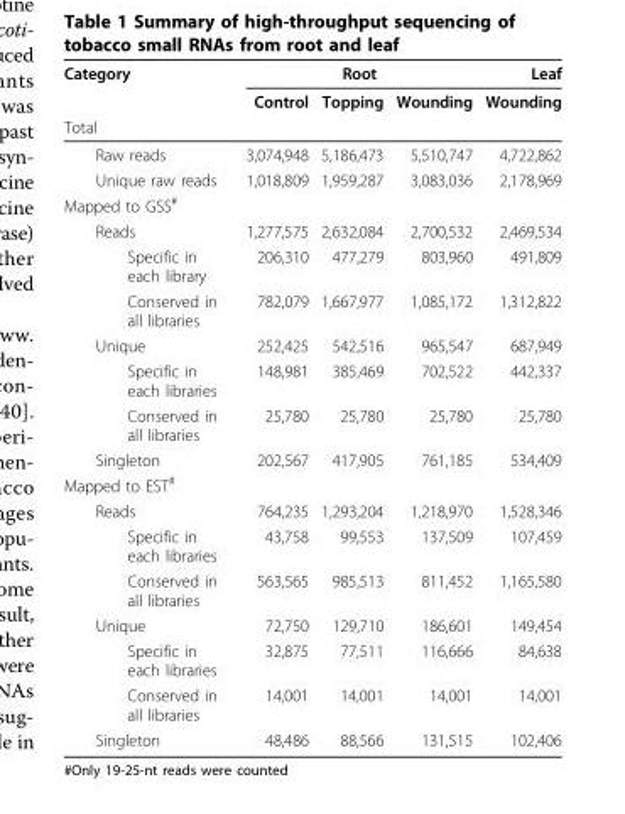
<table><thead><tr><td rowspan="3">Category Total</td><td colspan="3">Root</td><td rowspan="3">Leaf Wounding</td></tr><tr><td rowspan="2">Control</td><td rowspan="2">Topping</td><td rowspan="2">Wounding</td></tr><tr></tr></thead><tbody><tr><td>Raw reads</td><td>3,074,948</td><td>5,186,473</td><td>5,510,747</td><td>4,722,862</td></tr><tr><td>Unique raw reads</td><td>1,018,809</td><td>1,959,287</td><td>3,083,036</td><td>2,178,969</td></tr><tr><td colspan="5">Mapped to GSS<sup>#</sup></td></tr><tr><td>Reads</td><td>1,277,575</td><td>2,632,084</td><td>2,700,532</td><td>2,469,534</td></tr><tr><td>Specific in each library</td><td>206,310</td><td>477,279</td><td>803,960</td><td>491,809</td></tr><tr><td>Conserved in all libraries</td><td>782,079</td><td>1,667,977</td><td>1,085,172</td><td>1,312,822</td></tr><tr><td>Unique</td><td>252,425</td><td>542,516</td><td>965,547</td><td>687,949</td></tr><tr><td>Specific in each libraries</td><td>148,981</td><td>385,469</td><td>702,522</td><td>442,337</td></tr><tr><td>Conserved in all libraries</td><td>25,780</td><td>25,780</td><td>25,780</td><td>25,780</td></tr><tr><td>Singleton</td><td>202,567</td><td>417,905</td><td>761,185</td><td>534,409</td></tr><tr><td colspan="5">Mapped to EST<sup>#</sup></td></tr><tr><td>Reads</td><td>764,235</td><td>1,293,204</td><td>1,218,970</td><td>1,528,346</td></tr><tr><td>Specific in each libraries</td><td>43,758</td><td>99,553</td><td>137,509</td><td>107,459</td></tr><tr><td>Conserved in all libraries</td><td>563,565</td><td>985,513</td><td>811,452</td><td>1,165,580</td></tr><tr><td>Unique</td><td>72,750</td><td>129,710</td><td>186,601</td><td>149,454</td></tr><tr><td>Specific in each libraries</td><td>32,875</td><td>77,511</td><td>116,666</td><td>84,638</td></tr><tr><td>Conserved in all libraries</td><td>14,001</td><td>14,001</td><td>14,001</td><td>14,001</td></tr><tr><td>Singleton</td><td>48,486</td><td>88,566</td><td>131,515</td><td>102,406</td></tr></tbody></table>